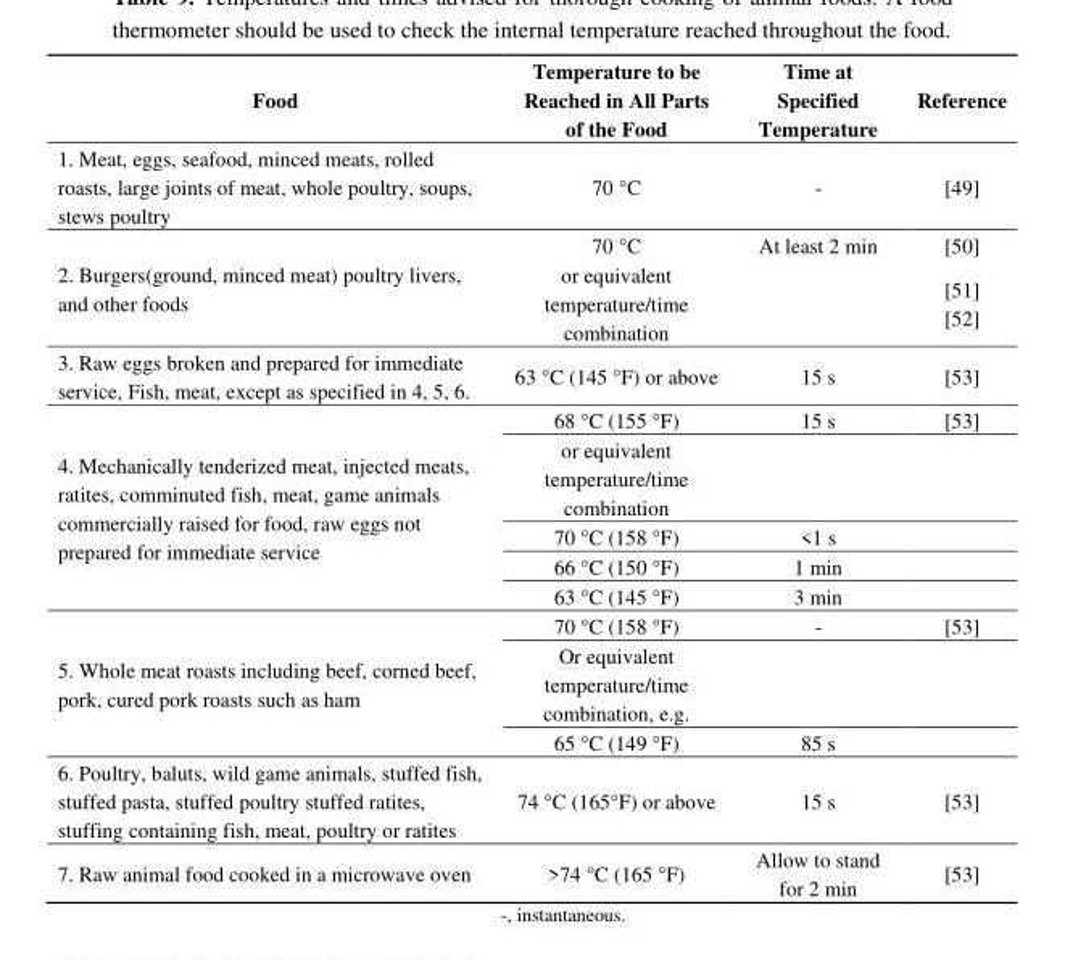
<table><thead><tr><td>Food</td><td>Temperature to be Reached in All Parts of the Food</td><td>Time at Specified Temperature</td><td>Reference</td></tr></thead><tbody><tr><td>1. Meat, eggs, seafood, minced meats, rolled roasts, large joints of meat, whole poultry, soups, stews poultry</td><td>70 °C</td><td>-</td><td>[49]</td></tr><tr><td rowspan="2">2. Burgers(ground, minced meat) poultry livers, and other foods</td><td>70 °C</td><td>At least 2 min</td><td>[50]</td></tr><tr><td>or equivalent temperature/time combination</td><td></td><td>[51] [52]</td></tr><tr><td>3. Raw eggs broken and prepared for immediate service, Fish, meat, except as specified in 4, 5, 6.</td><td>63 °C (145 °F) or above</td><td>15 s</td><td>[53]</td></tr><tr><td rowspan="5">4. Mechanically tenderized meat, injected meats, ratites, comminuted fish, meat, game animals commercially raised for food, raw eggs not prepared for immediate service</td><td>68 °C (155 °F)</td><td>15 s</td><td>[53]</td></tr><tr><td>or equivalent temperature/time combination</td><td></td><td></td></tr><tr><td>70 °C (158 °F)</td><td>&lt;1 s</td><td></td></tr><tr><td>66 °C (150 °F)</td><td>1 min</td><td></td></tr><tr><td>63 °C (145 °F)</td><td>3 min</td><td></td></tr><tr><td rowspan="3">5. Whole meat roasts including beef, corned beef, pork, cured pork roasts such as ham</td><td>70 °C (158 °F)</td><td>-</td><td>[53]</td></tr><tr><td>Or equivalent temperature/time combination, e.g.</td><td></td><td></td></tr><tr><td>65 °C (149 °F)</td><td>85 s</td><td></td></tr><tr><td>6. Poultry, baluts, wild game animals, stuffed fish, stuffed pasta, stuffed poultry stuffed ratites, stuffing containing fish, meat, poultry or ratites</td><td>74 °C (165°F) or above</td><td>15 s</td><td>[53]</td></tr><tr><td>7. Raw animal food cooked in a microwave oven</td><td>&gt;74 °C (165 °F)</td><td>Allow to stand for 2 min</td><td>[53]</td></tr></tbody></table>